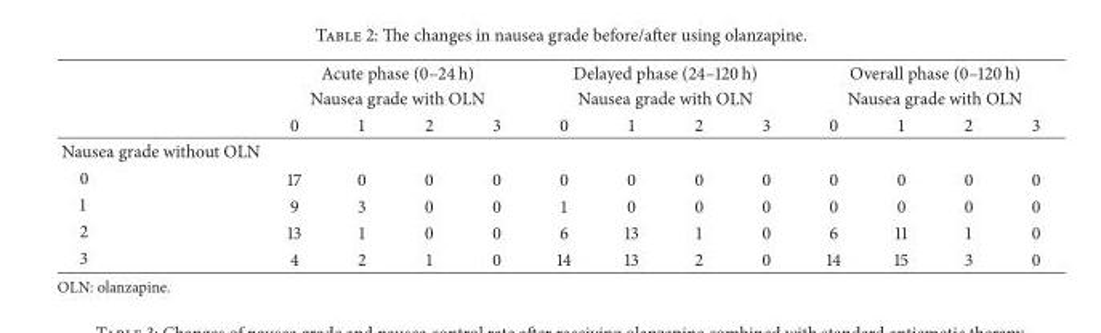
<table><thead><tr><td rowspan="3"></td><td rowspan="2" colspan="4">Acute phase (0–24 h) Nausea grade with OLN</td><td rowspan="2" colspan="4">Delayed phase (24–120 h) Nausea grade with OLN</td><td rowspan="2" colspan="4">Overall phase (0–120 h) Nausea grade with OLN</td></tr><tr></tr><tr><td>0</td><td>1</td><td>2</td><td>3</td><td>0</td><td>1</td><td>2</td><td>3</td><td>0</td><td>1</td><td>2</td><td>3</td></tr></thead><tbody><tr><td colspan="13">Nausea grade without OLN</td></tr><tr><td>0</td><td>17</td><td>0</td><td>0</td><td>0</td><td>0</td><td>0</td><td>0</td><td>0</td><td>0</td><td>0</td><td>0</td><td>0</td></tr><tr><td>1</td><td>9</td><td>3</td><td>0</td><td>0</td><td>1</td><td>0</td><td>0</td><td>0</td><td>0</td><td>0</td><td>0</td><td>0</td></tr><tr><td>2</td><td>13</td><td>1</td><td>0</td><td>0</td><td>6</td><td>13</td><td>1</td><td>0</td><td>6</td><td>11</td><td>1</td><td>0</td></tr><tr><td>3</td><td>4</td><td>2</td><td>1</td><td>0</td><td>14</td><td>13</td><td>2</td><td>0</td><td>14</td><td>15</td><td>3</td><td>0</td></tr></tbody></table>